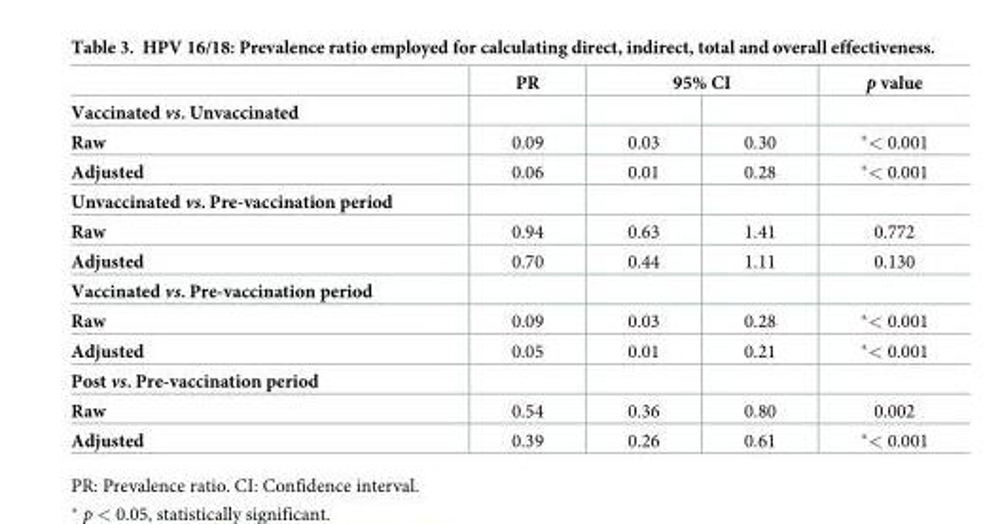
<table><thead><tr><td rowspan="2">Vaccinated vs. Unvaccinated</td><td rowspan="2">PR</td><td colspan="2">95% CI</td><td rowspan="2">p value</td></tr><tr><td></td><td></td></tr></thead><tbody><tr><td>Raw</td><td>0.09</td><td>0.03</td><td>0.30</td><td>*&lt; 0.001</td></tr><tr><td>Adjusted</td><td>0.06</td><td>0.01</td><td>0.28</td><td>*&lt; 0.001</td></tr><tr><td colspan="5">Unvaccinated vs. Pre-vaccination period</td></tr><tr><td>Raw</td><td>0.94</td><td>0.63</td><td>1.41</td><td>0.772</td></tr><tr><td>Adjusted</td><td>0.70</td><td>0.44</td><td>1.11</td><td>0.130</td></tr><tr><td colspan="5">Vaccinated vs. Pre-vaccination period</td></tr><tr><td>Raw</td><td>0.09</td><td>0.03</td><td>0.28</td><td>*&lt; 0.001</td></tr><tr><td>Adjusted</td><td>0.05</td><td>0.01</td><td>0.21</td><td>*&lt; 0.001</td></tr><tr><td colspan="5">Post vs. Pre-vaccination period</td></tr><tr><td>Raw</td><td>0.54</td><td>0.36</td><td>0.80</td><td>0.002</td></tr><tr><td>Adjusted</td><td>0.39</td><td>0.26</td><td>0.61</td><td>*&lt; 0.001</td></tr></tbody></table>